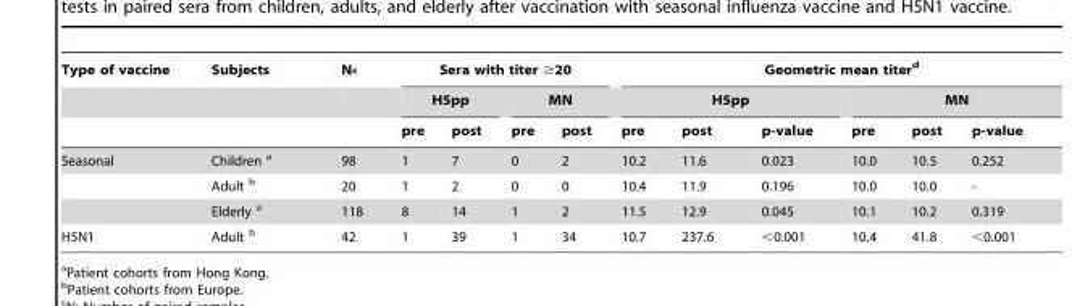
<table><thead><tr><td rowspan="3">Type of vaccine</td><td rowspan="3">Subjects</td><td rowspan="3">N<sup>c</sup></td><td colspan="4">Sera with titer ≥20</td><td colspan="6">Geometric mean titer<sup>d</sup></td></tr><tr><td colspan="2">H5pp</td><td colspan="2">MN</td><td colspan="3">H5pp</td><td colspan="3">MN</td></tr><tr><td>pre</td><td>post</td><td>pre</td><td>post</td><td>pre</td><td>post</td><td>p-value</td><td>pre</td><td>post</td><td>p-value</td></tr></thead><tbody><tr><td rowspan="3">Seasonal</td><td>Children a</td><td>98</td><td>1</td><td>7</td><td>0</td><td>2</td><td>10.2</td><td>11.6</td><td>0.023</td><td>10.0</td><td>10.5</td><td>0.252</td></tr><tr><td>Adult b</td><td>20</td><td>1</td><td>2</td><td>0</td><td>0</td><td>10.4</td><td>11.9</td><td>0.196</td><td>10.0</td><td>10.0</td><td>-</td></tr><tr><td>Elderly a</td><td>118</td><td>8</td><td>14</td><td>1</td><td>2</td><td>11.5</td><td>12.9</td><td>0.045</td><td>10.1</td><td>10.2</td><td>0.319</td></tr><tr><td>H5N1</td><td>Adult b</td><td>42</td><td>1</td><td>39</td><td>1</td><td>34</td><td>10.7</td><td>237.6</td><td>&lt;0.001</td><td>10.4</td><td>41.8</td><td>&lt;0.001</td></tr></tbody></table>